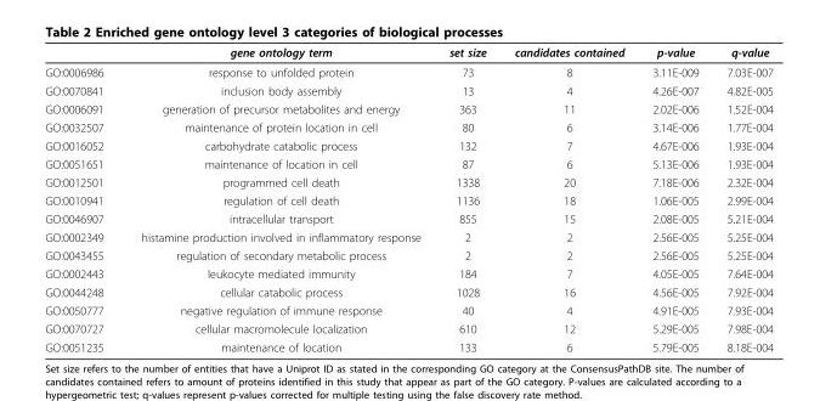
<table><thead><tr><td></td><td>gene ontology term</td><td>set size</td><td>candidates contained</td><td>p-value</td><td>q-value</td></tr></thead><tbody><tr><td>GO:0006986</td><td>response to unfolded protein</td><td>73</td><td>8</td><td>3.11E-009</td><td>7.03E-007</td></tr><tr><td>GO:0070841</td><td>inclusion body assembly</td><td>13</td><td>4</td><td>4.26E-007</td><td>4.82E-005</td></tr><tr><td>GO:0006091</td><td>generation of precursor metabolites and energy</td><td>363</td><td>11</td><td>2.02E-006</td><td>1.52E-004</td></tr><tr><td>GO:0032507</td><td>maintenance of protein location in cell</td><td>80</td><td>6</td><td>3.14E-006</td><td>1.77E-004</td></tr><tr><td>GO:0016052</td><td>carbohydrate catabolic process</td><td>132</td><td>7</td><td>4.67E-006</td><td>1.93E-004</td></tr><tr><td>GO:0051651</td><td>maintenance of location in cell</td><td>87</td><td>6</td><td>5.13E-006</td><td>1.93E-004</td></tr><tr><td>GO:0012501</td><td>programmed cell death</td><td>1338</td><td>20</td><td>7.18E-006</td><td>2.32E-004</td></tr><tr><td>GO:0010941</td><td>regulation of cell death</td><td>1136</td><td>18</td><td>1.06E-005</td><td>2.99E-004</td></tr><tr><td>GO:0046907</td><td>intracellular transport</td><td>855</td><td>15</td><td>2.08E-005</td><td>5.21E-004</td></tr><tr><td>GO:0002349</td><td>histamine production involved in inflammatory response</td><td>2</td><td>2</td><td>2.56E-005</td><td>5.25E-004</td></tr><tr><td>GO:0043455</td><td>regulation of secondary metabolic process</td><td>2</td><td>2</td><td>2.56E-005</td><td>5.25E-004</td></tr><tr><td>GO:0002443</td><td>leukocyte mediated immunity</td><td>184</td><td>7</td><td>4.05E-005</td><td>7.64E-004</td></tr><tr><td>GO:0044248</td><td>cellular catabolic process</td><td>1028</td><td>16</td><td>4.56E-005</td><td>7.92E-004</td></tr><tr><td>GO:0050777</td><td>negative regulation of immune response</td><td>40</td><td>4</td><td>4.91E-005</td><td>7.93E-004</td></tr><tr><td>GO:0070727</td><td>cellular macromolecule localization</td><td>610</td><td>12</td><td>5.29E-005</td><td>7.98E-004</td></tr><tr><td>GO:0051235</td><td>maintenance of location</td><td>133</td><td>6</td><td>5.79E-005</td><td>8.18E-004</td></tr></tbody></table>